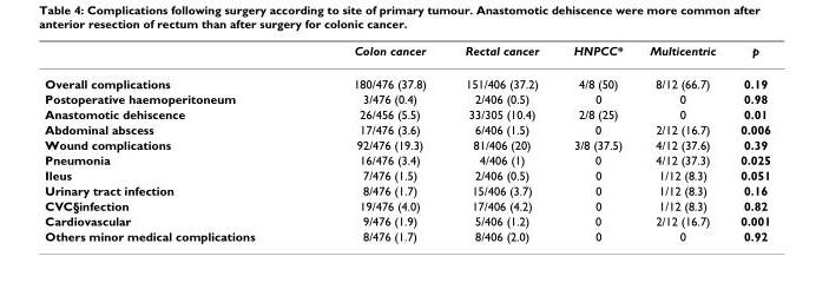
<table><thead><tr><td></td><td>Colon cancer</td><td>Rectal cancer</td><td>HNPCC*</td><td>Multicentric</td><td>p</td></tr></thead><tbody><tr><td>Overall complications</td><td>180/476 (37.8)</td><td>151/406 (37.2)</td><td>4/8 (50)</td><td>8/12 (66.7)</td><td>0.19</td></tr><tr><td>Postoperative haemoperitoneum</td><td>3/476 (0.4)</td><td>2/406 (0.5)</td><td>0</td><td>0</td><td>0.98</td></tr><tr><td>Anastomotic dehiscence</td><td>26/456 (5.5)</td><td>33/305 (10.4)</td><td>2/8 (25)</td><td>0</td><td>0.01</td></tr><tr><td>Abdominal abscess</td><td>17/476 (3.6)</td><td>6/406 (1.5)</td><td>0</td><td>2/12 (16.7)</td><td>0.006</td></tr><tr><td>Wound complications</td><td>92/476 (19.3)</td><td>81/406 (20)</td><td>3/8 (37.5)</td><td>4/12 (37.6)</td><td>0.39</td></tr><tr><td>Pneumonia</td><td>16/476 (3.4)</td><td>4/406 (1)</td><td>0</td><td>4/12 (37.3)</td><td>0.025</td></tr><tr><td>Ileus</td><td>7/476 (1.5)</td><td>2/406 (0.5)</td><td>0</td><td>1/12 (8.3)</td><td>0.051</td></tr><tr><td>Urinary tract infection</td><td>8/476 (1.7)</td><td>15/406 (3.7)</td><td>0</td><td>1/12 (8.3)</td><td>0.16</td></tr><tr><td>CVC§infection</td><td>19/476 (4.0)</td><td>17/406 (4.2)</td><td>0</td><td>1/12 (8.3)</td><td>0.82</td></tr><tr><td>Cardiovascular</td><td>9/476 (1.9)</td><td>5/406 (1.2)</td><td>0</td><td>2/12 (16.7)</td><td>0.001</td></tr><tr><td>Others minor medical complications</td><td>8/476 (1.7)</td><td>8/406 (2.0)</td><td>0</td><td>0</td><td>0.92</td></tr></tbody></table>